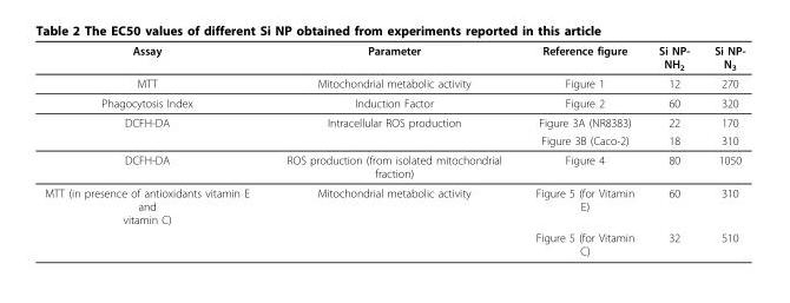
<table><thead><tr><td>Assay</td><td>Parameter</td><td>Reference figure</td><td>Si NP- NH<sub>2</sub></td><td>Si NP- N<sub>3</sub></td></tr></thead><tbody><tr><td>MTT</td><td>Mitochondrial metabolic activity</td><td>Figure 1</td><td>12</td><td>270</td></tr><tr><td>Phagocytosis Index</td><td>Induction Factor</td><td>Figure 2</td><td>60</td><td>320</td></tr><tr><td rowspan="2">DCFH-DA</td><td>Intracellular ROS production</td><td>Figure 3A (NR8383)</td><td>22</td><td>170</td></tr><tr><td></td><td>Figure 3B (Caco-2)</td><td>18</td><td>310</td></tr><tr><td>DCFH-DA</td><td>ROS production (from isolated mitochondrial fraction)</td><td>Figure 4</td><td>80</td><td>1050</td></tr><tr><td rowspan="2">MTT (in presence of antioxidants vitamin E and vitamin C)</td><td>Mitochondrial metabolic activity</td><td>Figure 5 (for Vitamin E)</td><td>60</td><td>310</td></tr><tr><td></td><td>Figure 5 (for Vitamin C)</td><td>32</td><td>510</td></tr></tbody></table>